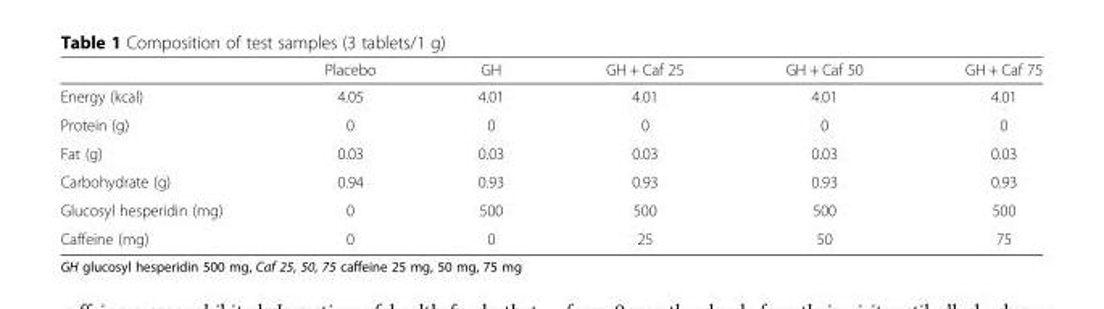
<table><thead><tr><td></td><td>Placebo</td><td>GH</td><td>GH + Caf 25</td><td>GH + Caf 50</td><td>GH + Caf 75</td></tr></thead><tbody><tr><td>Energy (kcal)</td><td>4.05</td><td>4.01</td><td>4.01</td><td>4.01</td><td>4.01</td></tr><tr><td>Protein (g)</td><td>0</td><td>0</td><td>0</td><td>0</td><td>0</td></tr><tr><td>Fat (g)</td><td>0.03</td><td>0.03</td><td>0.03</td><td>0.03</td><td>0.03</td></tr><tr><td>Carbohydrate (g)</td><td>0.94</td><td>0.93</td><td>0.93</td><td>0.93</td><td>0.93</td></tr><tr><td>Glucosyl hesperidin (mg)</td><td>0</td><td>500</td><td>500</td><td>500</td><td>500</td></tr><tr><td>Caffeine (mg)</td><td>0</td><td>0</td><td>25</td><td>50</td><td>75</td></tr></tbody></table>